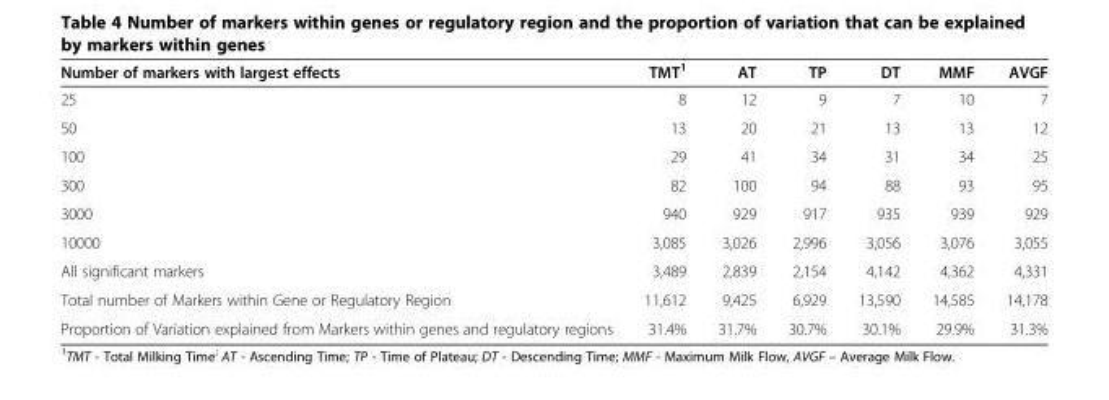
<table><thead><tr><td>Number of markers with largest effects</td><td>TMT<sup>1</sup></td><td>AT</td><td>TP</td><td>DT</td><td>MMF</td><td>AVGF</td></tr></thead><tbody><tr><td>25</td><td>8</td><td>12</td><td>9</td><td>7</td><td>10</td><td>7</td></tr><tr><td>50</td><td>13</td><td>20</td><td>21</td><td>13</td><td>13</td><td>12</td></tr><tr><td>100</td><td>29</td><td>41</td><td>34</td><td>31</td><td>34</td><td>25</td></tr><tr><td>300</td><td>82</td><td>100</td><td>94</td><td>88</td><td>93</td><td>95</td></tr><tr><td>3000</td><td>940</td><td>929</td><td>917</td><td>935</td><td>939</td><td>929</td></tr><tr><td>10000</td><td>3,085</td><td>3,026</td><td>2,996</td><td>3,056</td><td>3,076</td><td>3,055</td></tr><tr><td>All significant markers</td><td>3,489</td><td>2,839</td><td>2,154</td><td>4,142</td><td>4,362</td><td>4,331</td></tr><tr><td>Total number of Markers within Gene or Regulatory Region</td><td>11,612</td><td>9,425</td><td>6,929</td><td>13,590</td><td>14,585</td><td>14,178</td></tr><tr><td>Proportion of Variation explained from Markers within genes and regulatory regions</td><td>31.4%</td><td>31.7%</td><td>30.7%</td><td>30.1%</td><td>29.9%</td><td>31.3%</td></tr></tbody></table>